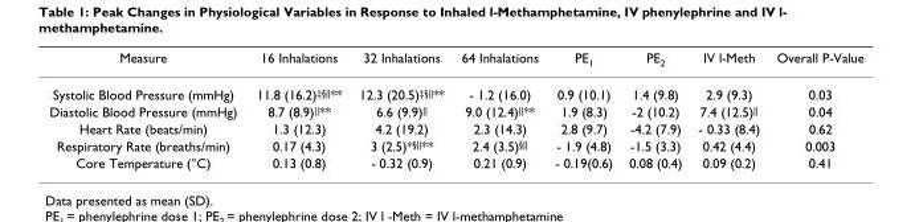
<table><thead><tr><td>Measure</td><td>16 Inhalations</td><td>32 Inhalations</td><td>64 Inhalations</td><td>PE<sub>1</sub></td><td>PE<sub>2</sub></td><td>IV l-Meth</td><td>Overall P-Value</td></tr></thead><tbody><tr><td>Systolic Blood Pressure (mmHg)</td><td>11.8 (16.2)<sup>‡§||</sup>**</td><td>12.3 (20.5)<sup>‡§||</sup>**</td><td>- 1.2 (16.0)</td><td>0.9 (10.1)</td><td>1.4 (9.8)</td><td>2.9 (9.3)</td><td>0.03</td></tr><tr><td>Diastolic Blood Pressure (mmHg)</td><td>8.7 (8.9)<sup>||</sup>**</td><td>6.6 (9.9)<sup>||</sup></td><td>9.0 (12.4)<sup>||</sup>**</td><td>1.9 (8.3)</td><td>-2 (10.2)</td><td>7.4 (12.5)<sup>||</sup></td><td>0.04</td></tr><tr><td>Heart Rate (beats/min)</td><td>1.3 (12.3)</td><td>4.2 (19.2)</td><td>2.3 (14.3)</td><td>2.8 (9.7)</td><td>-4.2 (7.9)</td><td>- 0.33 (8.4)</td><td>0.62</td></tr><tr><td>Respiratory Rate (breaths/min)</td><td>0.17 (4.3)</td><td>3 (2.5)*<sup>§||</sup>**</td><td>2.4 (3.5)<sup>§||</sup></td><td>- 1.9 (4.8)</td><td>-1.5 (3.3)</td><td>0.42 (4.4)</td><td>0.003</td></tr><tr><td>Core Temperature (°C)</td><td>0.13 (0.8)</td><td>- 0.32 (0.9)</td><td>0.21 (0.9)</td><td>- 0.19(0.6)</td><td>0.08 (0.4)</td><td>0.09 (0.2)</td><td>0.41</td></tr></tbody></table>